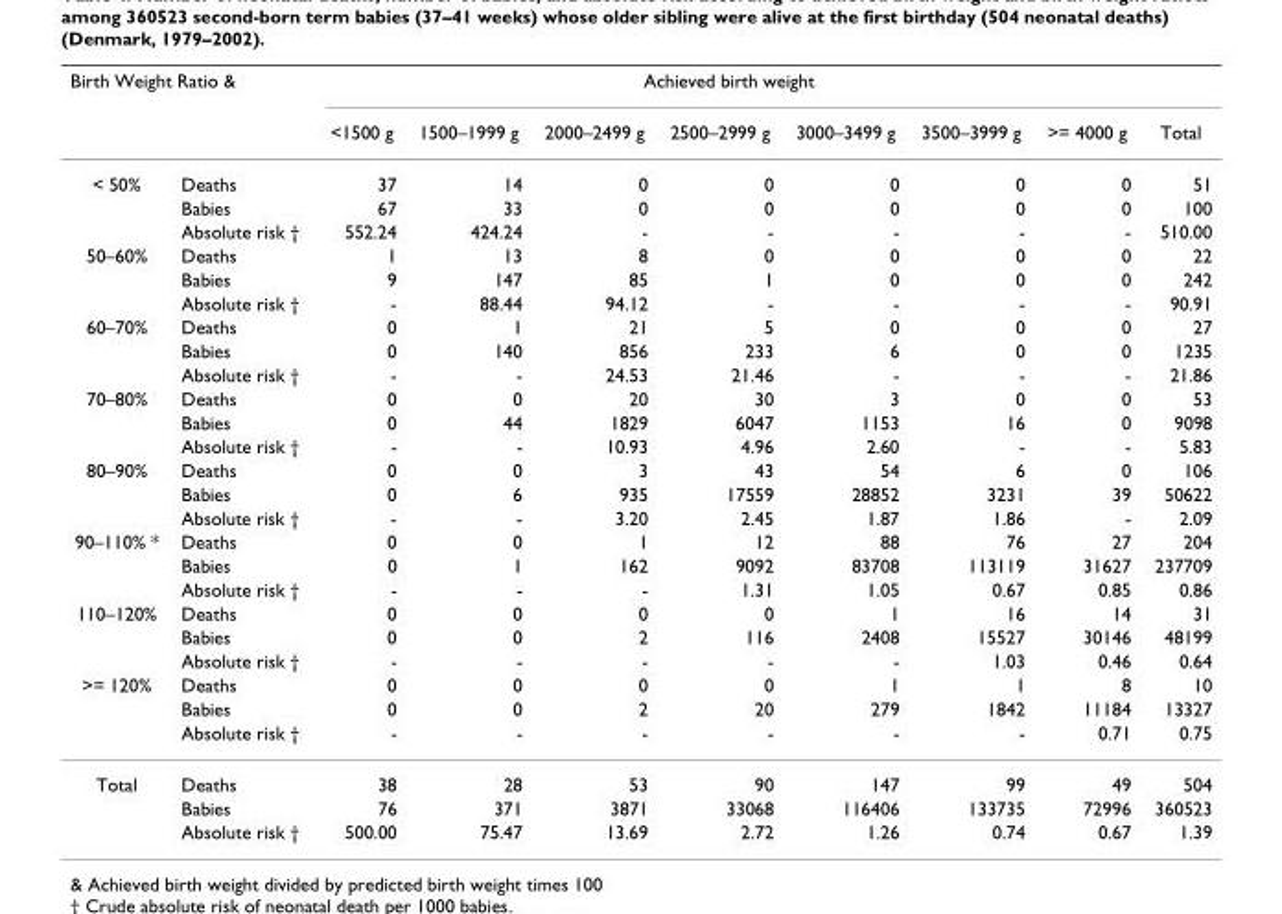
<table><thead><tr><td colspan="2">Birth Weight Ratio &amp;</td><td colspan="7">Achieved birth weight</td><td rowspan="2">Total</td></tr><tr><td></td><td></td><td>&lt;1500 g</td><td>1500–1999 g</td><td>2000–2499 g</td><td>2500–2999 g</td><td>3000–3499 g</td><td>3500–3999 g</td><td>&gt;= 4000 g</td></tr></thead><tbody><tr><td rowspan="3">&lt; 50%</td><td>Deaths</td><td>37</td><td>14</td><td>0</td><td>0</td><td>0</td><td>0</td><td>0</td><td>51</td></tr><tr><td>Babies</td><td>67</td><td>33</td><td>0</td><td>0</td><td>0</td><td>0</td><td>0</td><td>100</td></tr><tr><td>Absolute risk †</td><td>552.24</td><td>424.24</td><td>-</td><td>-</td><td>-</td><td>-</td><td>-</td><td>510.00</td></tr><tr><td rowspan="3">50–60%</td><td>Deaths</td><td>1</td><td>13</td><td>8</td><td>0</td><td>0</td><td>0</td><td>0</td><td>22</td></tr><tr><td>Babies</td><td>9</td><td>147</td><td>85</td><td>1</td><td>0</td><td>0</td><td>0</td><td>242</td></tr><tr><td>Absolute risk †</td><td>-</td><td>88.44</td><td>94.12</td><td>-</td><td>-</td><td>-</td><td>-</td><td>90.91</td></tr><tr><td rowspan="3">60–70%</td><td>Deaths</td><td>0</td><td>1</td><td>21</td><td>5</td><td>0</td><td>0</td><td>0</td><td>27</td></tr><tr><td>Babies</td><td>0</td><td>140</td><td>856</td><td>233</td><td>6</td><td>0</td><td>0</td><td>1235</td></tr><tr><td>Absolute risk †</td><td>-</td><td>-</td><td>24.53</td><td>21.46</td><td>-</td><td>-</td><td>-</td><td>21.86</td></tr><tr><td rowspan="3">70–80%</td><td>Deaths</td><td>0</td><td>0</td><td>20</td><td>30</td><td>3</td><td>0</td><td>0</td><td>53</td></tr><tr><td>Babies</td><td>0</td><td>44</td><td>1829</td><td>6047</td><td>1153</td><td>16</td><td>0</td><td>9098</td></tr><tr><td>Absolute risk †</td><td>-</td><td>-</td><td>10.93</td><td>4.96</td><td>2.60</td><td>-</td><td>-</td><td>5.83</td></tr><tr><td rowspan="3">80–90%</td><td>Deaths</td><td>0</td><td>0</td><td>3</td><td>43</td><td>54</td><td>6</td><td>0</td><td>106</td></tr><tr><td>Babies</td><td>0</td><td>6</td><td>935</td><td>17559</td><td>28852</td><td>3231</td><td>39</td><td>50622</td></tr><tr><td>Absolute risk †</td><td>-</td><td>-</td><td>3.20</td><td>2.45</td><td>1.87</td><td>1.86</td><td>-</td><td>2.09</td></tr><tr><td rowspan="3">90–110% *</td><td>Deaths</td><td>0</td><td>0</td><td>1</td><td>12</td><td>88</td><td>76</td><td>27</td><td>204</td></tr><tr><td>Babies</td><td>0</td><td>1</td><td>162</td><td>9092</td><td>83708</td><td>113119</td><td>31627</td><td>237709</td></tr><tr><td>Absolute risk †</td><td>-</td><td>-</td><td>-</td><td>1.31</td><td>1.05</td><td>0.67</td><td>0.85</td><td>0.86</td></tr><tr><td rowspan="3">110–120%</td><td>Deaths</td><td>0</td><td>0</td><td>0</td><td>0</td><td>1</td><td>16</td><td>14</td><td>31</td></tr><tr><td>Babies</td><td>0</td><td>0</td><td>2</td><td>116</td><td>2408</td><td>15527</td><td>30146</td><td>48199</td></tr><tr><td>Absolute risk †</td><td>-</td><td>-</td><td>-</td><td>-</td><td>-</td><td>1.03</td><td>0.46</td><td>0.64</td></tr><tr><td rowspan="3">&gt;= 120%</td><td>Deaths</td><td>0</td><td>0</td><td>0</td><td>0</td><td>1</td><td>1</td><td>8</td><td>10</td></tr><tr><td>Babies</td><td>0</td><td>0</td><td>2</td><td>20</td><td>279</td><td>1842</td><td>11184</td><td>13327</td></tr><tr><td>Absolute risk †</td><td>-</td><td>-</td><td>-</td><td>-</td><td>-</td><td>-</td><td>0.71</td><td>0.75</td></tr><tr><td rowspan="3">Total</td><td>Deaths</td><td>38</td><td>28</td><td>53</td><td>90</td><td>147</td><td>99</td><td>49</td><td>504</td></tr><tr><td>Babies</td><td>76</td><td>371</td><td>3871</td><td>33068</td><td>116406</td><td>133735</td><td>72996</td><td>360523</td></tr><tr><td>Absolute risk †</td><td>500.00</td><td>75.47</td><td>13.69</td><td>2.72</td><td>1.26</td><td>0.74</td><td>0.67</td><td>1.39</td></tr></tbody></table>